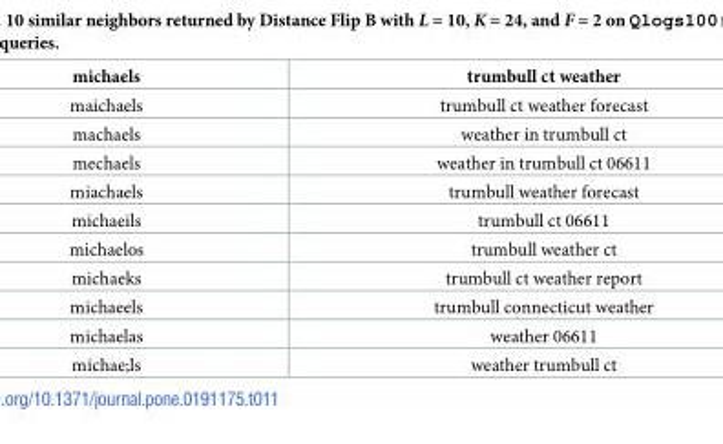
<table><thead><tr><td>michaels</td><td>trumbull ct weather</td></tr></thead><tbody><tr><td>maichaels</td><td>trumbull ct weather forecast</td></tr><tr><td>machaels</td><td>weather in trumbull ct</td></tr><tr><td>mechaels</td><td>weather in trumbull ct 06611</td></tr><tr><td>miachaels</td><td>trumbull weather forecast</td></tr><tr><td>michaeils</td><td>trumbull ct 06611</td></tr><tr><td>michaelos</td><td>trumbull weather ct</td></tr><tr><td>michaeks</td><td>trumbull ct weather report</td></tr><tr><td>michaeels</td><td>trumbull connecticut weather</td></tr><tr><td>michaelas</td><td>weather 06611</td></tr><tr><td>michae;ls</td><td>weather trumbull ct</td></tr></tbody></table>